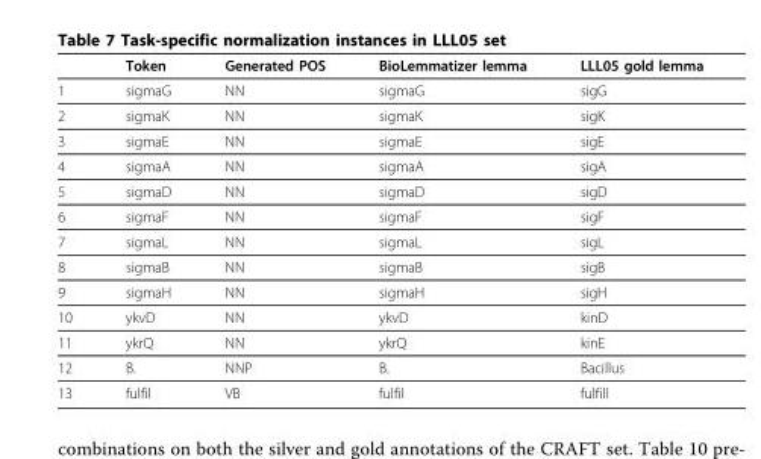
<table><thead><tr><td></td><td>Token</td><td>Generated POS</td><td>BioLemmatizer lemma</td><td>LLL05 gold lemma</td></tr></thead><tbody><tr><td>1</td><td>sigmaG</td><td>NN</td><td>sigmaG</td><td>sigG</td></tr><tr><td>2</td><td>sigmaK</td><td>NN</td><td>sigmaK</td><td>sigK</td></tr><tr><td>3</td><td>sigmaE</td><td>NN</td><td>sigmaE</td><td>sigE</td></tr><tr><td>4</td><td>sigmaA</td><td>NN</td><td>sigmaA</td><td>sigA</td></tr><tr><td>5</td><td>sigmaD</td><td>NN</td><td>sigmaD</td><td>sigD</td></tr><tr><td>6</td><td>sigmaF</td><td>NN</td><td>sigmaF</td><td>sigF</td></tr><tr><td>7</td><td>sigmaL</td><td>NN</td><td>sigmaL</td><td>sigL</td></tr><tr><td>8</td><td>sigmaB</td><td>NN</td><td>sigmaB</td><td>sigB</td></tr><tr><td>9</td><td>sigmaH</td><td>NN</td><td>sigmaH</td><td>sigH</td></tr><tr><td>10</td><td>ykvD</td><td>NN</td><td>ykvD</td><td>kinD</td></tr><tr><td>11</td><td>ykrQ</td><td>NN</td><td>ykrQ</td><td>kinE</td></tr><tr><td>12</td><td>B.</td><td>NNP</td><td>B.</td><td>Bacillus</td></tr><tr><td>13</td><td>fulfil</td><td>VB</td><td>fulfil</td><td>fulfill</td></tr></tbody></table>